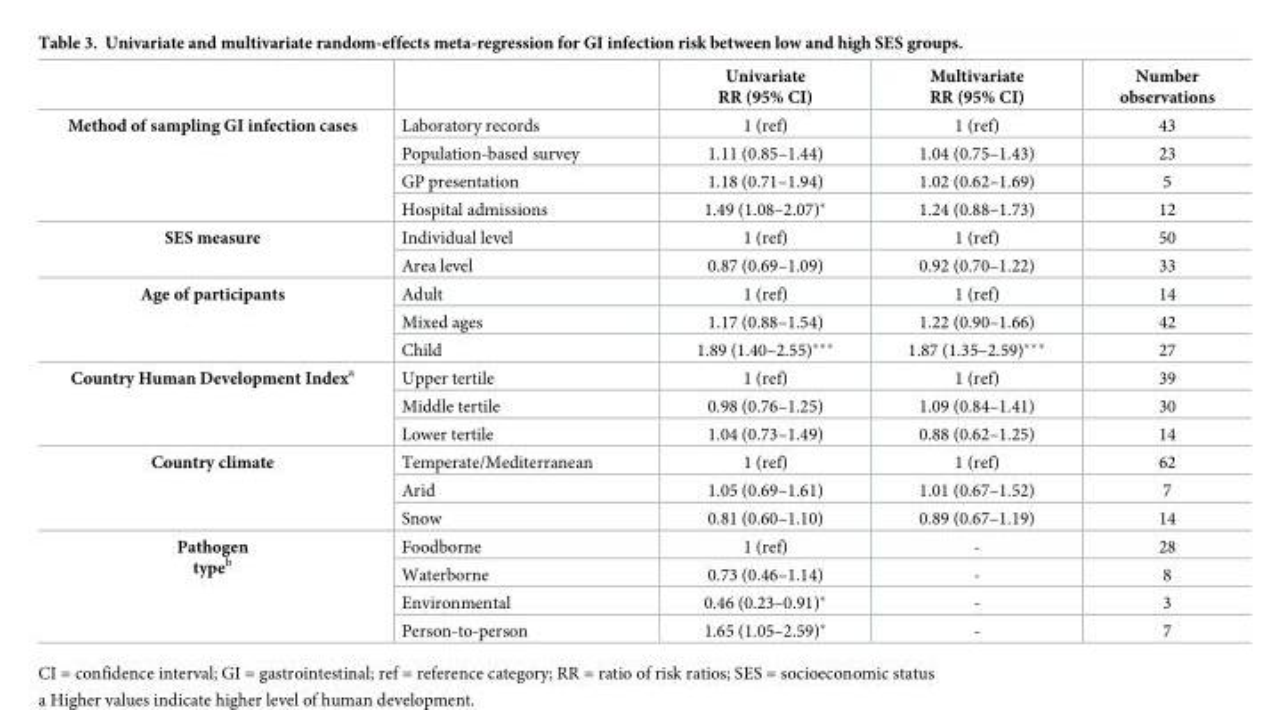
<table><thead><tr><td></td><td></td><td>Univariate RR (95% CI)</td><td>Multivariate RR (95% CI)</td><td>Number observations</td></tr></thead><tbody><tr><td rowspan="4">Method of sampling GI infection cases</td><td>Laboratory records</td><td>1 (ref)</td><td>1 (ref)</td><td>43</td></tr><tr><td>Population-based survey</td><td>1.11 (0.85–1.44)</td><td>1.04 (0.75–1.43)</td><td>23</td></tr><tr><td>GP presentation</td><td>1.18 (0.71–1.94)</td><td>1.02 (0.62–1.69)</td><td>5</td></tr><tr><td>Hospital admissions</td><td>1.49 (1.08–2.07)*</td><td>1.24 (0.88–1.73)</td><td>12</td></tr><tr><td rowspan="2">SES measure</td><td>Individual level</td><td>1 (ref)</td><td>1 (ref)</td><td>50</td></tr><tr><td>Area level</td><td>0.87 (0.69–1.09)</td><td>0.92 (0.70–1.22)</td><td>33</td></tr><tr><td rowspan="3">Age of participants</td><td>Adult</td><td>1 (ref)</td><td>1 (ref)</td><td>14</td></tr><tr><td>Mixed ages</td><td>1.17 (0.88–1.54)</td><td>1.22 (0.90–1.66)</td><td>42</td></tr><tr><td>Child</td><td>1.89 (1.40–2.55)***</td><td>1.87 (1.35–2.59)***</td><td>27</td></tr><tr><td rowspan="3">Country Human Development Index<sup>a</sup></td><td>Upper tertile</td><td>1 (ref)</td><td>1 (ref)</td><td>39</td></tr><tr><td>Middle tertile</td><td>0.98 (0.76–1.25)</td><td>1.09 (0.84–1.41)</td><td>30</td></tr><tr><td>Lower tertile</td><td>1.04 (0.73–1.49)</td><td>0.88 (0.62–1.25)</td><td>14</td></tr><tr><td rowspan="3">Country climate</td><td>Temperate/Mediterranean</td><td>1 (ref)</td><td>1 (ref)</td><td>62</td></tr><tr><td>Arid</td><td>1.05 (0.69–1.61)</td><td>1.01 (0.67–1.52)</td><td>7</td></tr><tr><td>Snow</td><td>0.81 (0.60–1.10)</td><td>0.89 (0.67–1.19)</td><td>14</td></tr><tr><td rowspan="4">Pathogen type<sup>b</sup></td><td>Foodborne</td><td>1 (ref)</td><td>-</td><td>28</td></tr><tr><td>Waterborne</td><td>0.73 (0.46–1.14)</td><td>-</td><td>8</td></tr><tr><td>Environmental</td><td>0.46 (0.23–0.91)*</td><td>-</td><td>3</td></tr><tr><td>Person-to-person</td><td>1.65 (1.05–2.59)*</td><td>-</td><td>7</td></tr></tbody></table>